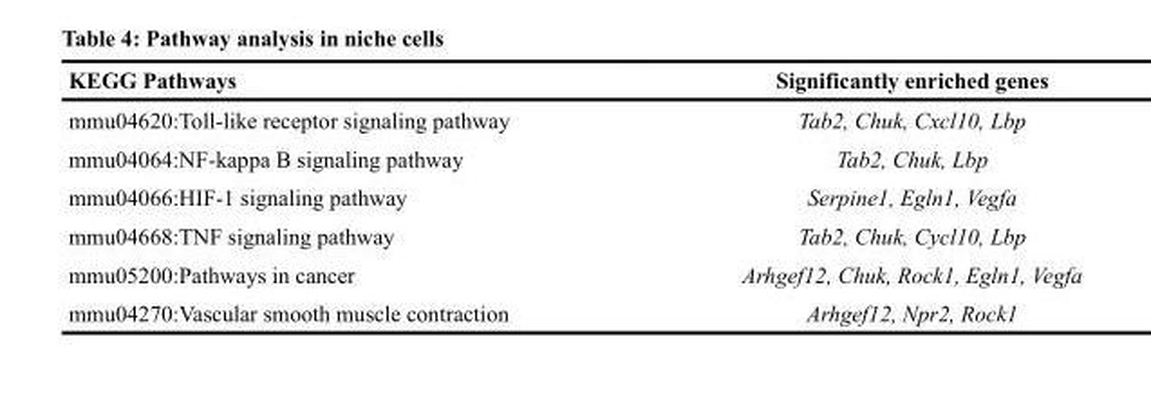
<table><thead><tr><td>KEGG Pathways</td><td>Significantly enriched genes</td></tr></thead><tbody><tr><td>mmu04620:Toll-like receptor signaling pathway</td><td>Tab2, Chuk, Cxcl10, Lbp</td></tr><tr><td>mmu04064:NF-kappa B signaling pathway</td><td>Tab2, Chuk, Lbp</td></tr><tr><td>mmu04066:HIF-1 signaling pathway</td><td>Serpine1, Egln1, Vegfa</td></tr><tr><td>mmu04668:TNF signaling pathway</td><td>Tab2, Chuk, Cycl10, Lbp</td></tr><tr><td>mmu05200:Pathways in cancer</td><td>Arhgef12, Chuk, Rock1, Egln1, Vegfa</td></tr><tr><td>mmu04270:Vascular smooth muscle contraction</td><td>Arhgef12, Npr2, Rock1</td></tr></tbody></table>